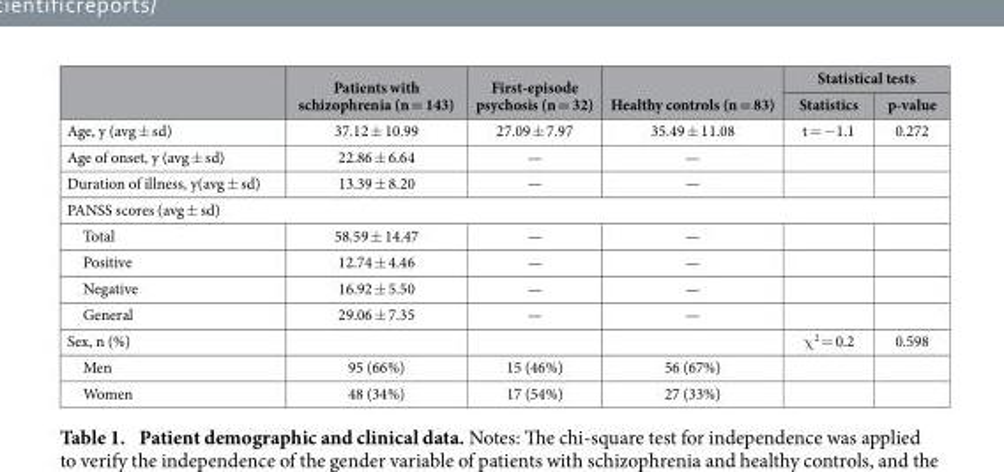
<table><thead><tr><td rowspan="2"></td><td rowspan="2">Patients with schizophrenia (n = 143)</td><td rowspan="2">First-episode psychosis (n = 32)</td><td rowspan="2">Healthy controls (n = 83)</td><td colspan="2">Statistical tests</td></tr><tr><td>Statistics</td><td>p-value</td></tr></thead><tbody><tr><td>Age, y (avg ± sd)</td><td>37.12 ± 10.99</td><td>27.09 ± 7.97</td><td>35.49 ± 11.08</td><td>t = − 1.1</td><td>0.272</td></tr><tr><td>Age of onset, y (avg ± sd)</td><td>22.86 ± 6.64</td><td>—</td><td>—</td><td></td><td></td></tr><tr><td>Duration of illness, y(avg ± sd)</td><td>13.39 ± 8.20</td><td>—</td><td>—</td><td></td><td></td></tr><tr><td colspan="6">PANSS scores (avg ± sd)</td></tr><tr><td>Total</td><td>58.59 ± 14.47</td><td>—</td><td>—</td><td></td><td></td></tr><tr><td>Positive</td><td>12.74 ± 4.46</td><td>—</td><td>—</td><td></td><td></td></tr><tr><td>Negative</td><td>16.92 ± 5.50</td><td>—</td><td>—</td><td></td><td></td></tr><tr><td>General</td><td>29.06 ± 7.35</td><td>—</td><td>—</td><td></td><td></td></tr><tr><td>Sex, n (%)</td><td></td><td></td><td></td><td>χ <sup>2</sup> = 0.2</td><td>0.598</td></tr><tr><td>Men</td><td>95 (66%)</td><td>15 (46%)</td><td>56 (67%)</td><td></td><td></td></tr><tr><td>Women</td><td>48 (34%)</td><td>17 (54%)</td><td>27 (33%)</td><td></td><td></td></tr></tbody></table>